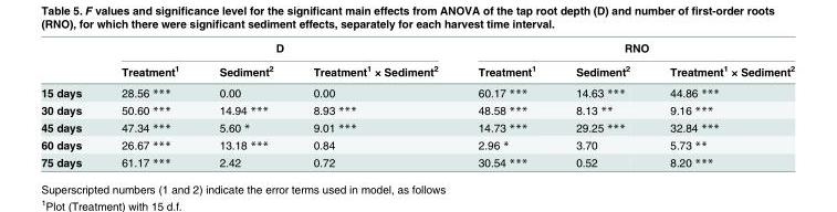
<table><thead><tr><td rowspan="2"></td><td colspan="3">D</td><td colspan="3">RNO</td></tr><tr><td>Treatment<sup>1</sup></td><td>Sediment<sup>2</sup></td><td>Treatment<sup>1</sup> × Sediment<sup>2</sup></td><td>Treatment<sup>1</sup></td><td>Sediment<sup>2</sup></td><td>Treatment<sup>1</sup> × Sediment<sup>2</sup></td></tr></thead><tbody><tr><td>15 days</td><td>28.56 ***</td><td>0.00</td><td>0.00</td><td>60.17 ***</td><td>14.63 ***</td><td>44.86 ***</td></tr><tr><td>30 days</td><td>50.60 ***</td><td>14.94 ***</td><td>8.93 ***</td><td>48.58 ***</td><td>8.13 **</td><td>9.16 ***</td></tr><tr><td>45 days</td><td>47.34 ***</td><td>5.60 *</td><td>9.01 ***</td><td>14.73 ***</td><td>29.25 ***</td><td>32.84 ***</td></tr><tr><td>60 days</td><td>26.67 ***</td><td>13.18 ***</td><td>0.84</td><td>2.96 *</td><td>3.70</td><td>5.73 **</td></tr><tr><td>75 days</td><td>61.17 ***</td><td>2.42</td><td>0.72</td><td>30.54 ***</td><td>0.52</td><td>8.20 ***</td></tr></tbody></table>